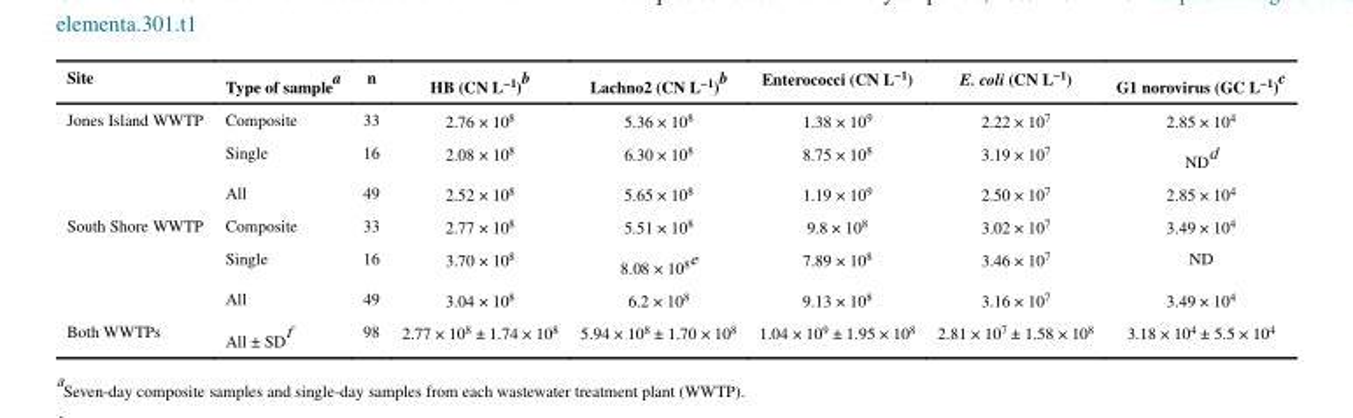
<table><thead><tr><td>Site</td><td>Type of sample<sup>a</sup></td><td>n</td><td>HB (CN L<sup>−1</sup>)<sup>b</sup></td><td>Lachno2 (CN L<sup>−1</sup>)<sup>b</sup></td><td>Enterococci (CN L<sup>−1</sup>)</td><td>E. coli (CN L<sup>−1</sup>)</td><td>G1 norovirus (GC L<sup>−1</sup>)<sup>c</sup></td></tr></thead><tbody><tr><td rowspan="3">Jones Island WWTP</td><td>Composite</td><td>33</td><td>2.76 × 10<sup>8</sup></td><td>5.36 × 10<sup>8</sup></td><td>1.38 × 10<sup>9</sup></td><td>2.22 × 10<sup>7</sup></td><td>2.85 × 10<sup>4</sup></td></tr><tr><td>Single</td><td>16</td><td>2.08 × 10<sup>8</sup></td><td>6.30 × 10<sup>8</sup></td><td>8.75 × 10<sup>8</sup></td><td>3.19 × 10<sup>7</sup></td><td>ND<sup>d</sup></td></tr><tr><td>All</td><td>49</td><td>2.52 × 10<sup>8</sup></td><td>5.65 × 10<sup>8</sup></td><td>1.19 × 10<sup>9</sup></td><td>2.50 × 10<sup>7</sup></td><td>2.85 × 10<sup>4</sup></td></tr><tr><td rowspan="3">South Shore WWTP</td><td>Composite</td><td>33</td><td>2.77 × 10<sup>8</sup></td><td>5.51 × 10<sup>8</sup></td><td>9.8 × 10<sup>8</sup></td><td>3.02 × 10<sup>7</sup></td><td>3.49 × 10<sup>4</sup></td></tr><tr><td>Single</td><td>16</td><td>3.70 × 10<sup>8</sup></td><td>8.08 × 10<sup>8e</sup></td><td>7.89 × 10<sup>8</sup></td><td>3.46 × 10<sup>7</sup></td><td>ND</td></tr><tr><td>All</td><td>49</td><td>3.04 × 10<sup>8</sup></td><td>6.2 × 10<sup>8</sup></td><td>9.13 × 10<sup>8</sup></td><td>3.16 × 10<sup>7</sup></td><td>3.49 × 10<sup>4</sup></td></tr><tr><td>Both WWTPs</td><td>All ± SD<sup>f</sup></td><td>98</td><td>2.77 × 10<sup>8</sup> ± 1.74 × 10<sup>8</sup></td><td>5.94 × 10<sup>8</sup> ± 1.70 × 10<sup>8</sup></td><td>1.04 × 10<sup>9</sup> ± 1.95 × 10<sup>8</sup></td><td>2.81 × 10<sup>7</sup> ± 1.58 × 10<sup>8</sup></td><td>3.18 × 10<sup>4</sup> ± 5.5 × 10<sup>4</sup></td></tr></tbody></table>